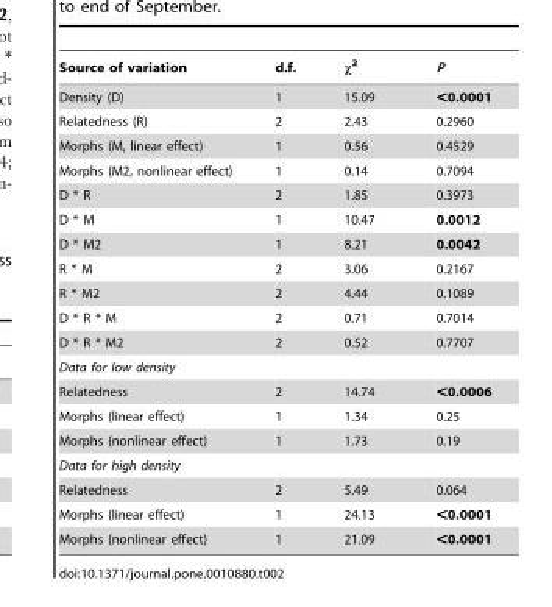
<table><thead><tr><td>Source of variation</td><td>d.f.</td><td>χ<sup>2</sup></td><td>P</td></tr></thead><tbody><tr><td>Density (D)</td><td>1</td><td>15.09</td><td>&lt;0.0001</td></tr><tr><td>Relatedness (R)</td><td>2</td><td>2.43</td><td>0.2960</td></tr><tr><td>Morphs (M, linear effect)</td><td>1</td><td>0.56</td><td>0.4529</td></tr><tr><td>Morphs (M2, nonlinear effect)</td><td>1</td><td>0.14</td><td>0.7094</td></tr><tr><td>D * R</td><td>2</td><td>1.85</td><td>0.3973</td></tr><tr><td>D * M</td><td>1</td><td>10.47</td><td>0.0012</td></tr><tr><td>D * M2</td><td>1</td><td>8.21</td><td>0.0042</td></tr><tr><td>R * M</td><td>2</td><td>3.06</td><td>0.2167</td></tr><tr><td>R * M2</td><td>2</td><td>4.44</td><td>0.1089</td></tr><tr><td>D * R * M</td><td>2</td><td>0.71</td><td>0.7014</td></tr><tr><td>D * R * M2</td><td>2</td><td>0.52</td><td>0.7707</td></tr><tr><td colspan="4">Data for low density</td></tr><tr><td>Relatedness</td><td>2</td><td>14.74</td><td>&lt;0.0006</td></tr><tr><td>Morphs (linear effect)</td><td>1</td><td>1.34</td><td>0.25</td></tr><tr><td>Morphs (nonlinear effect)</td><td>1</td><td>1.73</td><td>0.19</td></tr><tr><td colspan="4">Data for high density</td></tr><tr><td>Relatedness</td><td>2</td><td>5.49</td><td>0.064</td></tr><tr><td>Morphs (linear effect)</td><td>1</td><td>24.13</td><td>&lt;0.0001</td></tr><tr><td>Morphs (nonlinear effect)</td><td>1</td><td>21.09</td><td>&lt;0.0001</td></tr></tbody></table>